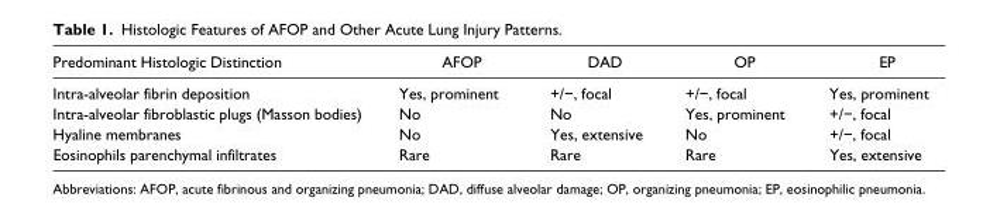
<table><thead><tr><td>Predominant Histologic Distinction</td><td>AFOP</td><td>DAD</td><td>OP</td><td>EP</td></tr></thead><tbody><tr><td>Intra-alveolar fibrin deposition</td><td>Yes, prominent</td><td>+/−, focal</td><td>+/−, focal</td><td>Yes, prominent</td></tr><tr><td>Intra-alveolar fibroblastic plugs (Masson bodies)</td><td>No</td><td>No</td><td>Yes, prominent</td><td>+/−, focal</td></tr><tr><td>Hyaline membranes</td><td>No</td><td>Yes, extensive</td><td>No</td><td>+/−, focal</td></tr><tr><td>Eosinophils parenchymal infiltrates</td><td>Rare</td><td>Rare</td><td>Rare</td><td>Yes, extensive</td></tr></tbody></table>